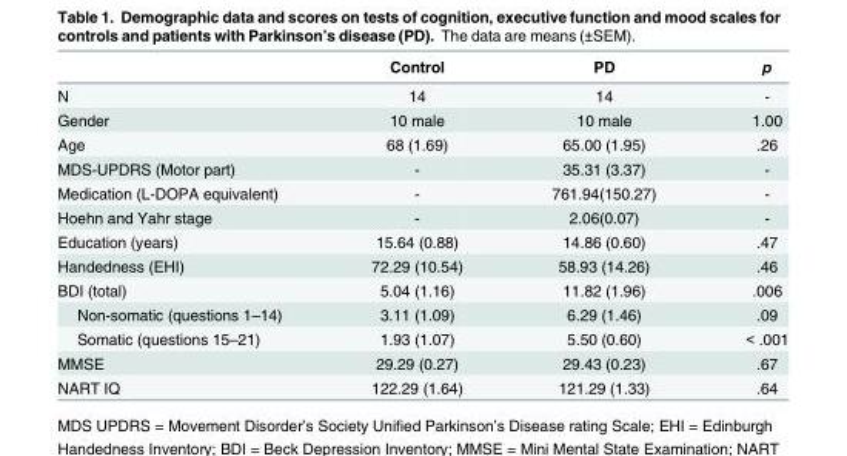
<table><thead><tr><td></td><td>Control</td><td>PD</td><td>p</td></tr></thead><tbody><tr><td>N</td><td>14</td><td>14</td><td>-</td></tr><tr><td>Gender</td><td>10 male</td><td>10 male</td><td>1.00</td></tr><tr><td>Age</td><td>68 (1.69)</td><td>65.00 (1.95)</td><td>.26</td></tr><tr><td>MDS-UPDRS (Motor part)</td><td>-</td><td>35.31 (3.37)</td><td>-</td></tr><tr><td>Medication (L-DOPA equivalent)</td><td>-</td><td>761.94(150.27)</td><td>-</td></tr><tr><td>Hoehn and Yahr stage</td><td>-</td><td>2.06(0.07)</td><td>-</td></tr><tr><td>Education (years)</td><td>15.64 (0.88)</td><td>14.86 (0.60)</td><td>.47</td></tr><tr><td>Handedness (EHI)</td><td>72.29 (10.54)</td><td>58.93 (14.26)</td><td>.46</td></tr><tr><td>BDI (total)</td><td>5.04 (1.16)</td><td>11.82 (1.96)</td><td>.006</td></tr><tr><td>Non-somatic (questions 1–14)</td><td>3.11 (1.09)</td><td>6.29 (1.46)</td><td>.09</td></tr><tr><td>Somatic (questions 15–21)</td><td>1.93 (1.07)</td><td>5.50 (0.60)</td><td>&lt; .001</td></tr><tr><td>MMSE</td><td>29.29 (0.27)</td><td>29.43 (0.23)</td><td>.67</td></tr><tr><td>NART IQ</td><td>122.29 (1.64)</td><td>121.29 (1.33)</td><td>.64</td></tr></tbody></table>